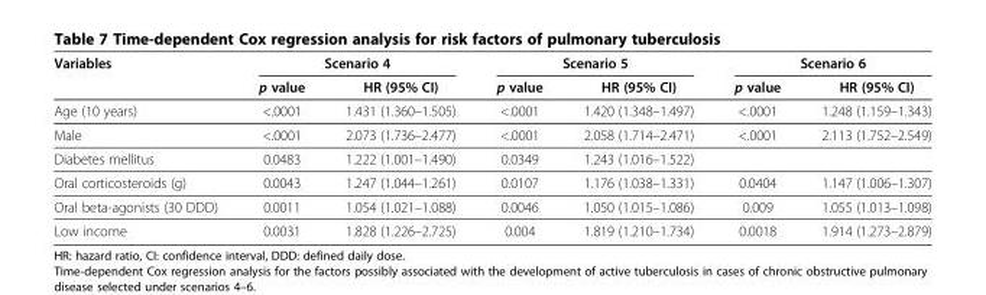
<table><thead><tr><td rowspan="2">Variables</td><td colspan="2">Scenario 4</td><td colspan="2">Scenario 5</td><td colspan="2">Scenario 6</td></tr><tr><td>p value</td><td>HR (95% CI)</td><td>p value</td><td>HR (95% CI)</td><td>p value</td><td>HR (95% CI)</td></tr></thead><tbody><tr><td>Age (10 years)</td><td>&lt;.0001</td><td>1.431 (1.360–1.505)</td><td>&lt;.0001</td><td>1.420 (1.348–1.497)</td><td>&lt;.0001</td><td>1.248 (1.159–1.343)</td></tr><tr><td>Male</td><td>&lt;.0001</td><td>2.073 (1.736–2.477)</td><td>&lt;.0001</td><td>2.058 (1.714–2.471)</td><td>&lt;.0001</td><td>2.113 (1.752–2.549)</td></tr><tr><td>Diabetes mellitus</td><td>0.0483</td><td>1.222 (1.001–1.490)</td><td>0.0349</td><td>1.243 (1.016–1.522)</td><td></td><td></td></tr><tr><td>Oral corticosteroids (g)</td><td>0.0043</td><td>1.247 (1.044–1.261)</td><td>0.0107</td><td>1.176 (1.038–1.331)</td><td>0.0404</td><td>1.147 (1.006–1.307)</td></tr><tr><td>Oral beta-agonists (30 DDD)</td><td>0.0011</td><td>1.054 (1.021–1.088)</td><td>0.0046</td><td>1.050 (1.015–1.086)</td><td>0.009</td><td>1.055 (1.013–1.098)</td></tr><tr><td>Low income</td><td>0.0031</td><td>1.828 (1.226–2.725)</td><td>0.004</td><td>1.819 (1.210–1.734)</td><td>0.0018</td><td>1.914 (1.273–2.879)</td></tr></tbody></table>